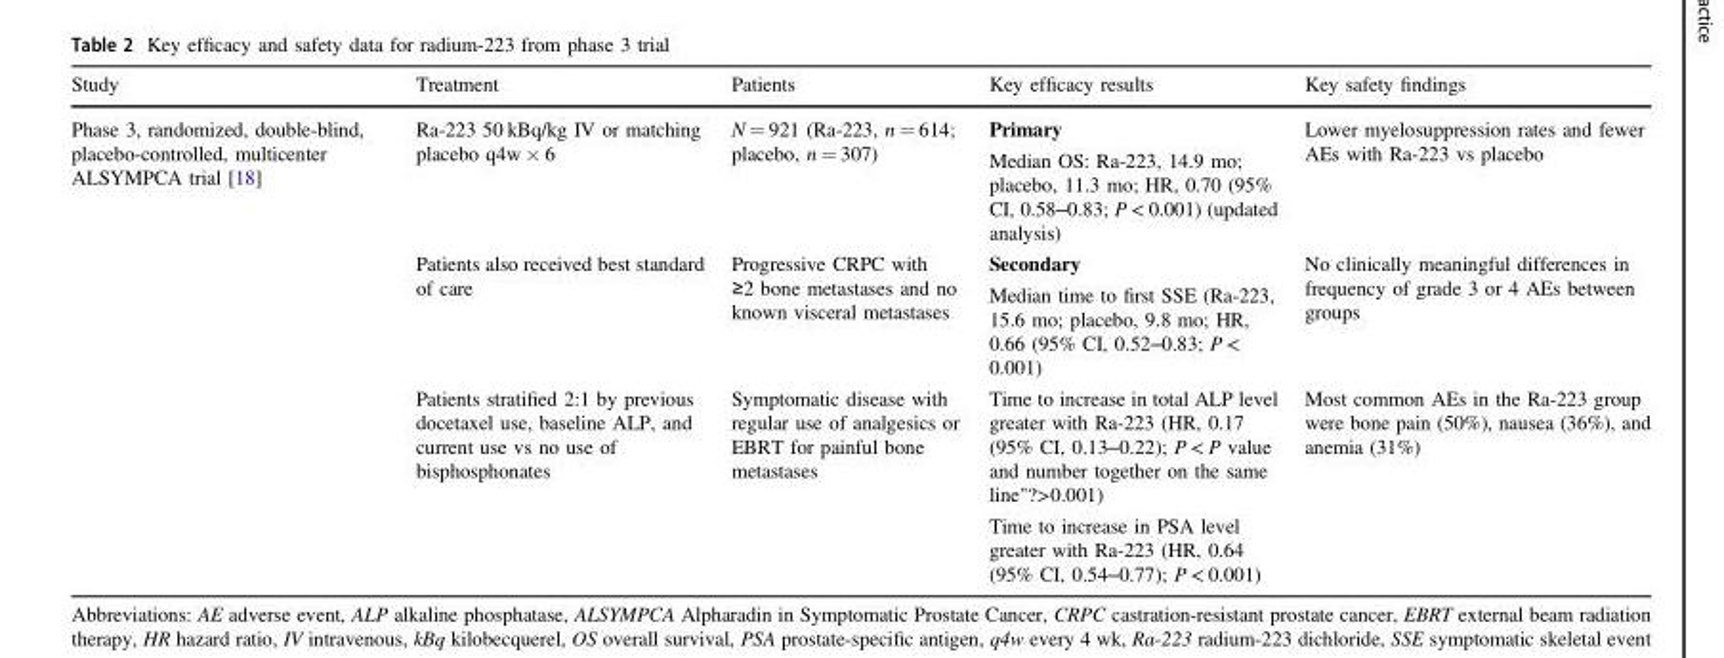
<table><thead><tr><td>Study</td><td>Treatment</td><td>Patients</td><td>Key efficacy results</td><td>Key safety findings</td></tr></thead><tbody><tr><td rowspan="6">Phase 3, randomized, double-blind, placebo-controlled, multicenter ALSYMPCA trial [18]</td><td rowspan="2">Ra-223 50 kBq/kg IV or matching placebo q4w × 6</td><td rowspan="2">N = 921 (Ra-223, n = 614; placebo, n = 307)</td><td>Primary</td><td rowspan="2">Lower myelosuppression rates and fewer AEs with Ra-223 vs placebo</td></tr><tr><td>Median OS: Ra-223, 14.9 mo; placebo, 11.3 mo; HR, 0.70 (95% CI, 0.58‒0.83; P &lt; 0.001) (updated analysis)</td></tr><tr><td rowspan="2">Patients also received best standard of care</td><td rowspan="2">Progressive CRPC with ≥2 bone metastases and no known visceral metastases</td><td>Secondary</td><td rowspan="2">No clinically meaningful differences in frequency of grade 3 or 4 AEs between groups</td></tr><tr><td>Median time to first SSE (Ra-223, 15.6 mo; placebo, 9.8 mo; HR, 0.66 (95% CI, 0.52‒0.83; P &lt; 0.001)</td></tr><tr><td rowspan="2">Patients stratified 2:1 by previous docetaxel use, baseline ALP, and current use vs no use of bisphosphonates</td><td rowspan="2">Symptomatic disease with regular use of analgesics or EBRT for painful bone metastases</td><td>Time to increase in total ALP level greater with Ra-223 (HR, 0.17 (95% CI, 0.13‒0.22); P &lt; P value and number together on the same line&quot;?&gt;0.001)</td><td rowspan="2">Most common AEs in the Ra-223 group were bone pain (50%), nausea (36%), and anemia (31%)</td></tr><tr><td>Time to increase in PSA level greater with Ra-223 (HR, 0.64 (95% CI, 0.54‒0.77); P &lt; 0.001)</td></tr></tbody></table>